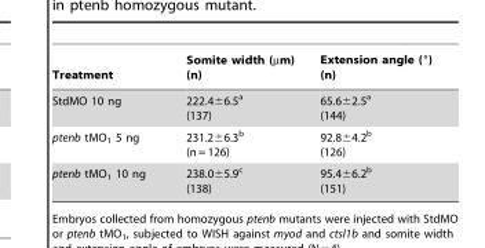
<table><thead><tr><td>Treatment</td><td>Somite width (µm) (n)</td><td>Extension angle (°) (n)</td></tr></thead><tbody><tr><td>StdMO 10 ng</td><td>222.4±6.5<sup>a</sup> (137)</td><td>65.6±2.5<sup>a</sup> (144)</td></tr><tr><td>ptenb tMO<sub>1</sub> 5 ng</td><td>231.2±6.3<sup>b</sup> (n = 126)</td><td>92.8±4.2<sup>b</sup> (126)</td></tr><tr><td>ptenb tMO<sub>1</sub> 10 ng</td><td>238.0±5.9<sup>c</sup> (138)</td><td>95.4±6.2<sup>b</sup> (151)</td></tr></tbody></table>